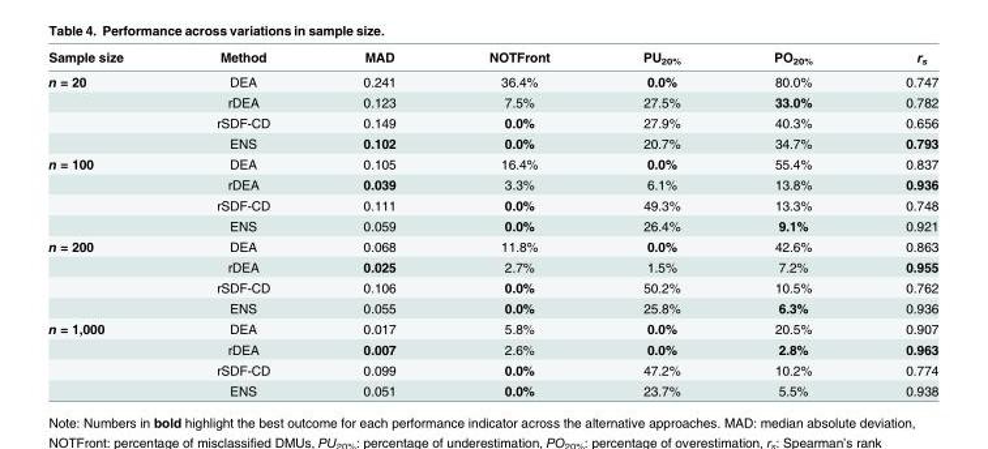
<table><thead><tr><td>Sample size</td><td>Method</td><td>MAD</td><td>NOTFront</td><td>PU<sub>20%</sub></td><td>PO<sub>20%</sub></td><td>r<sub>s</sub></td></tr></thead><tbody><tr><td rowspan="4">n = 20</td><td>DEA</td><td>0.241</td><td>36.4%</td><td>0.0%</td><td>80.0%</td><td>0.747</td></tr><tr><td>rDEA</td><td>0.123</td><td>7.5%</td><td>27.5%</td><td>33.0%</td><td>0.782</td></tr><tr><td>rSDF-CD</td><td>0.149</td><td>0.0%</td><td>27.9%</td><td>40.3%</td><td>0.656</td></tr><tr><td>ENS</td><td>0.102</td><td>0.0%</td><td>20.7%</td><td>34.7%</td><td>0.793</td></tr><tr><td rowspan="4">n = 100</td><td>DEA</td><td>0.105</td><td>16.4%</td><td>0.0%</td><td>55.4%</td><td>0.837</td></tr><tr><td>rDEA</td><td>0.039</td><td>3.3%</td><td>6.1%</td><td>13.8%</td><td>0.936</td></tr><tr><td>rSDF-CD</td><td>0.111</td><td>0.0%</td><td>49.3%</td><td>13.3%</td><td>0.748</td></tr><tr><td>ENS</td><td>0.059</td><td>0.0%</td><td>26.4%</td><td>9.1%</td><td>0.921</td></tr><tr><td rowspan="4">n = 200</td><td>DEA</td><td>0.068</td><td>11.8%</td><td>0.0%</td><td>42.6%</td><td>0.863</td></tr><tr><td>rDEA</td><td>0.025</td><td>2.7%</td><td>1.5%</td><td>7.2%</td><td>0.955</td></tr><tr><td>rSDF-CD</td><td>0.106</td><td>0.0%</td><td>50.2%</td><td>10.5%</td><td>0.762</td></tr><tr><td>ENS</td><td>0.055</td><td>0.0%</td><td>25.8%</td><td>6.3%</td><td>0.936</td></tr><tr><td rowspan="4">n = 1,000</td><td>DEA</td><td>0.017</td><td>5.8%</td><td>0.0%</td><td>20.5%</td><td>0.907</td></tr><tr><td>rDEA</td><td>0.007</td><td>2.6%</td><td>0.0%</td><td>2.8%</td><td>0.963</td></tr><tr><td>rSDF-CD</td><td>0.099</td><td>0.0%</td><td>47.2%</td><td>10.2%</td><td>0.774</td></tr><tr><td>ENS</td><td>0.051</td><td>0.0%</td><td>23.7%</td><td>5.5%</td><td>0.938</td></tr></tbody></table>